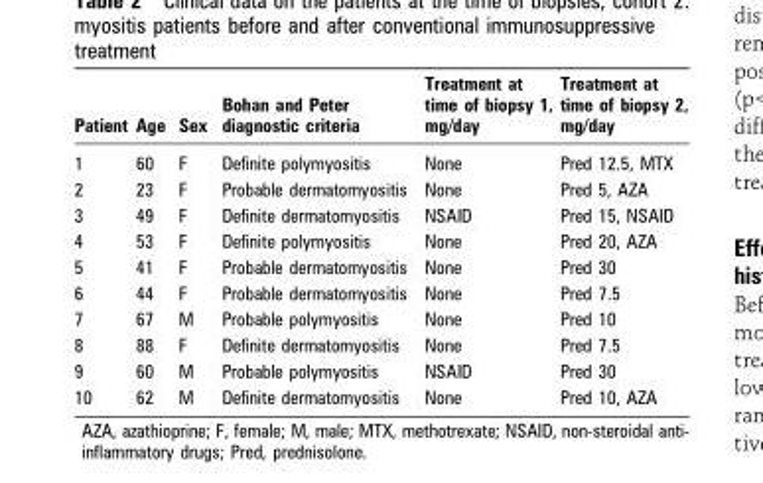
<table><thead><tr><td>Patient</td><td>Age</td><td>Sex</td><td>Bohan and Peter diagnostic criteria</td><td>Treatment at time of biopsy 1, mg/day</td><td>Treatment at time of biopsy 2, mg/day</td></tr></thead><tbody><tr><td>1</td><td>60</td><td>F</td><td>Definite polymyositis</td><td>None</td><td>Pred 12.5, MTX</td></tr><tr><td>2</td><td>23</td><td>F</td><td>Probable dermatomyositis</td><td>None</td><td>Pred 5, AZA</td></tr><tr><td>3</td><td>49</td><td>F</td><td>Definite dermatomyositis</td><td>NSAID</td><td>Pred 15, NSAID</td></tr><tr><td>4</td><td>53</td><td>F</td><td>Definite polymyositis</td><td>None</td><td>Pred 20, AZA</td></tr><tr><td>5</td><td>41</td><td>F</td><td>Probable dermatomyositis</td><td>None</td><td>Pred 30</td></tr><tr><td>6</td><td>44</td><td>F</td><td>Probable dermatomyositis</td><td>None</td><td>Pred 7.5</td></tr><tr><td>7</td><td>67</td><td>M</td><td>Probable polymyositis</td><td>None</td><td>Pred 10</td></tr><tr><td>8</td><td>88</td><td>F</td><td>Definite dermatomyositis</td><td>None</td><td>Pred 7.5</td></tr><tr><td>9</td><td>60</td><td>M</td><td>Probable polymyositis</td><td>NSAID</td><td>Pred 30</td></tr><tr><td>10</td><td>62</td><td>M</td><td>Definite dermatomyositis</td><td>None</td><td>Pred 10, AZA</td></tr></tbody></table>